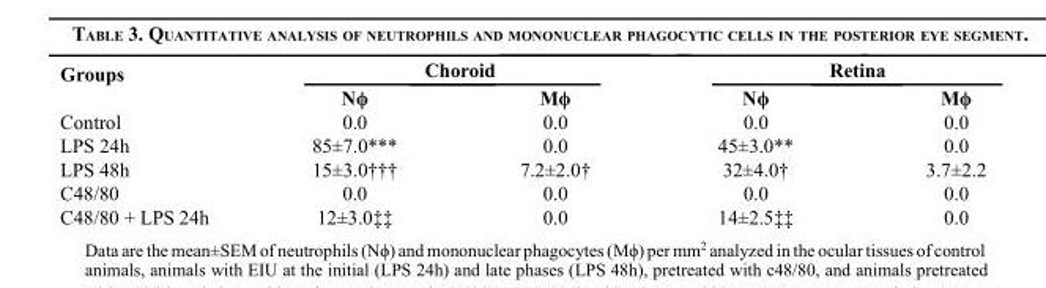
<table><thead><tr><td rowspan="2">Groups</td><td colspan="2">Choroid</td><td colspan="2">Retina</td></tr><tr><td>Nϕ</td><td>Mϕ</td><td>Nϕ</td><td>Mϕ</td></tr></thead><tbody><tr><td>Control</td><td>0.0</td><td>0.0</td><td>0.0</td><td>0.0</td></tr><tr><td>LPS 24h</td><td>85±7.0***</td><td>0.0</td><td>45±3.0**</td><td>0.0</td></tr><tr><td>LPS 48h</td><td>15±3.0†††</td><td>7.2±2.0†</td><td>32±4.0†</td><td>3.7±2.2</td></tr><tr><td>C48/80</td><td>0.0</td><td>0.0</td><td>0.0</td><td>0.0</td></tr><tr><td>C48/80 + LPS 24h</td><td>12±3.0‡‡</td><td>0.0</td><td>14±2.5‡‡</td><td>0.0</td></tr></tbody></table>